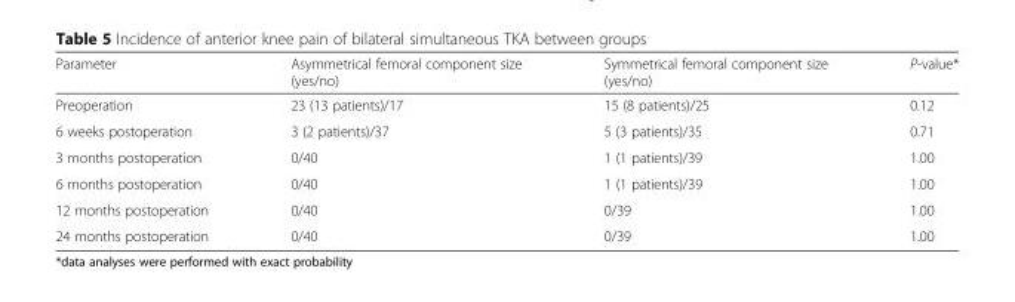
<table><thead><tr><td>Parameter</td><td>Asymmetrical femoral component size (yes/no)</td><td>Symmetrical femoral component size (yes/no)</td><td>P-value*</td></tr></thead><tbody><tr><td>Preoperation</td><td>23 (13 patients)/17</td><td>15 (8 patients)/25</td><td>0.12</td></tr><tr><td>6 weeks postoperation</td><td>3 (2 patients)/37</td><td>5 (3 patients)/35</td><td>0.71</td></tr><tr><td>3 months postoperation</td><td>0/40</td><td>1 (1 patients)/39</td><td>1.00</td></tr><tr><td>6 months postoperation</td><td>0/40</td><td>1 (1 patients)/39</td><td>1.00</td></tr><tr><td>12 months postoperation</td><td>0/40</td><td>0/39</td><td>1.00</td></tr><tr><td>24 months postoperation</td><td>0/40</td><td>0/39</td><td>1.00</td></tr></tbody></table>